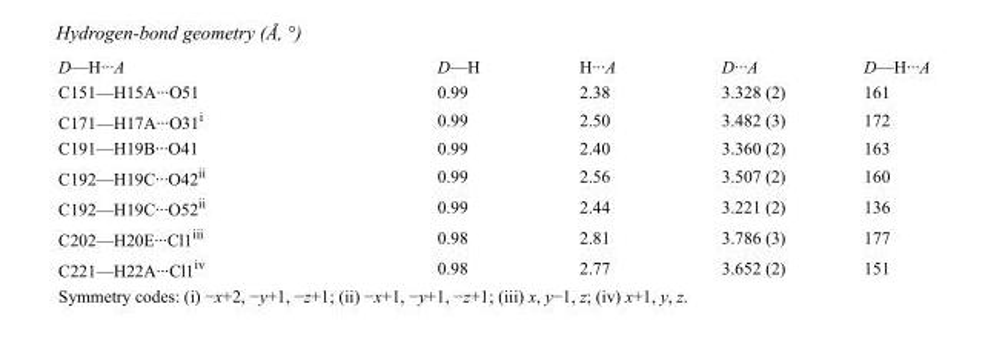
<table><tbody><tr><td>D—H···A</td><td>D—H</td><td>H···A</td><td>D···A</td><td>D—H···A</td></tr><tr><td>C151—H15A···O51</td><td>0.99</td><td>2.38</td><td>3.328 (2)</td><td>161</td></tr><tr><td>C171—H17A···O31<sup>i</sup></td><td>0.99</td><td>2.50</td><td>3.482 (3)</td><td>172</td></tr><tr><td>C191—H19B···O41</td><td>0.99</td><td>2.40</td><td>3.360 (2)</td><td>163</td></tr><tr><td>C192—H19C···O42<sup>ii</sup></td><td>0.99</td><td>2.56</td><td>3.507 (2)</td><td>160</td></tr><tr><td>C192—H19C···O52<sup>ii</sup></td><td>0.99</td><td>2.44</td><td>3.221 (2)</td><td>136</td></tr><tr><td>C202—H20E···Cl1<sup>iii</sup></td><td>0.98</td><td>2.81</td><td>3.786 (3)</td><td>177</td></tr><tr><td>C221—H22A···Cl1<sup>iv</sup></td><td>0.98</td><td>2.77</td><td>3.652 (2)</td><td>151</td></tr></tbody></table>